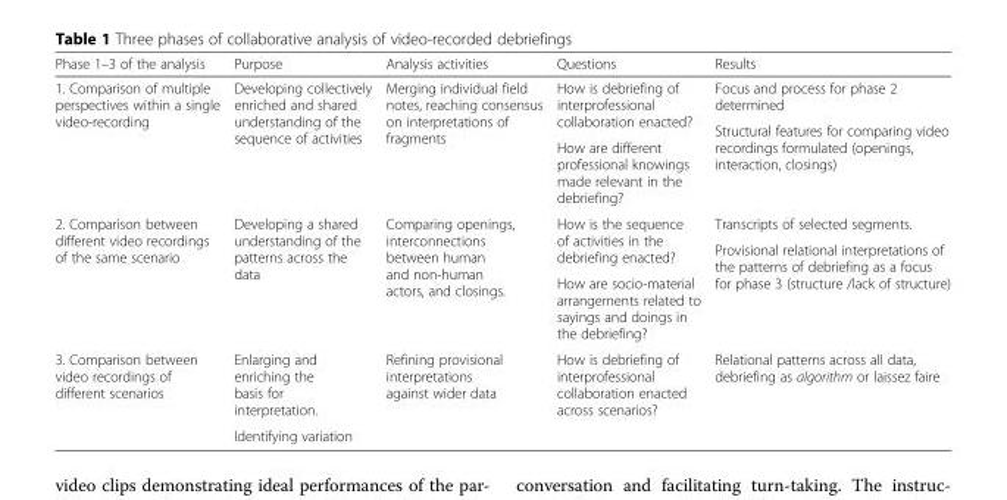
<table><thead><tr><td>Phase 1–3 of the analysis</td><td>Purpose</td><td>Analysis activities</td><td>Questions</td><td>Results</td></tr></thead><tbody><tr><td rowspan="3">1. Comparison of multiple perspectives within a single video-recording</td><td rowspan="3">Developing collectively enriched and shared understanding of the sequence of activities</td><td rowspan="3">Merging individual field notes, reaching consensus on interpretations of fragments</td><td rowspan="2">How is debriefing of interprofessional collaboration enacted?</td><td>Focus and process for phase 2 determined</td></tr><tr><td rowspan="2">Structural features for comparing video recordings formulated (openings, interaction, closings)</td></tr><tr><td>How are different professional knowings made relevant in the debriefing?</td></tr><tr><td rowspan="3">2. Comparison between different video recordings of the same scenario</td><td rowspan="3">Developing a shared understanding of the patterns across the data</td><td rowspan="3">Comparing openings, interconnections between human and non-human actors, and closings.</td><td rowspan="2">How is the sequence of activities in the debriefing enacted?</td><td>Transcripts of selected segments.</td></tr><tr><td rowspan="2">Provisional relational interpretations of the patterns of debriefing as a focus for phase 3 (structure /lack of structure)</td></tr><tr><td>How are socio-material arrangements related to sayings and doings in the debriefing?</td></tr><tr><td rowspan="2">3. Comparison between video recordings of different scenarios</td><td>Enlarging and enriching the basis for interpretation.</td><td rowspan="2">Refining provisional interpretations against wider data</td><td rowspan="2">How is debriefing of interprofessional collaboration enacted across scenarios?</td><td rowspan="2">Relational patterns across all data, debriefing as algorithm or laissez faire</td></tr><tr><td>Identifying variation</td></tr></tbody></table>